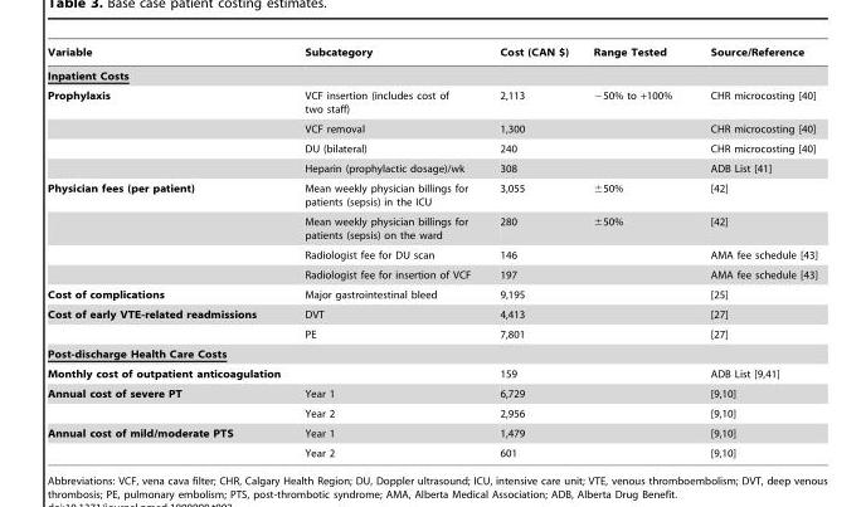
<table><thead><tr><td>Variable</td><td>Subcategory</td><td>Cost (CAN $)</td><td>Range Tested</td><td>Source/Reference</td></tr></thead><tbody><tr><td colspan="5">Inpatient Costs</td></tr><tr><td rowspan="4">Prophylaxis</td><td>VCF insertion (includes cost of two staff)</td><td>2,113</td><td>−50% to +100%</td><td>CHR microcosting [40]</td></tr><tr><td>VCF removal</td><td>1,300</td><td></td><td>CHR microcosting [40]</td></tr><tr><td>DU (bilateral)</td><td>240</td><td></td><td>CHR microcosting [40]</td></tr><tr><td>Heparin (prophylactic dosage)/wk</td><td>308</td><td></td><td>ADB List [41]</td></tr><tr><td rowspan="4">Physician fees (per patient)</td><td>Mean weekly physician billings for patients (sepsis) in the ICU</td><td>3,055</td><td>±50%</td><td>[42]</td></tr><tr><td>Mean weekly physician billings for patients (sepsis) on the ward</td><td>280</td><td>±50%</td><td>[42]</td></tr><tr><td>Radiologist fee for DU scan</td><td>146</td><td></td><td>AMA fee schedule [43]</td></tr><tr><td>Radiologist fee for insertion of VCF</td><td>197</td><td></td><td>AMA fee schedule [43]</td></tr><tr><td>Cost of complications</td><td>Major gastrointestinal bleed</td><td>9,195</td><td></td><td>[25]</td></tr><tr><td rowspan="2">Cost of early VTE-related readmissions</td><td>DVT</td><td>4,413</td><td></td><td>[27]</td></tr><tr><td>PE</td><td>7,801</td><td></td><td>[27]</td></tr><tr><td colspan="5">Post-discharge Health Care Costs</td></tr><tr><td>Monthly cost of outpatient anticoagulation</td><td></td><td>159</td><td></td><td>ADB List [9,41]</td></tr><tr><td rowspan="2">Annual cost of severe PT</td><td>Year 1</td><td>6,729</td><td></td><td>[9,10]</td></tr><tr><td>Year 2</td><td>2,956</td><td></td><td>[9,10]</td></tr><tr><td rowspan="2">Annual cost of mild/moderate PTS</td><td>Year 1</td><td>1,479</td><td></td><td>[9,10]</td></tr><tr><td>Year 2</td><td>601</td><td></td><td>[9,10]</td></tr></tbody></table>